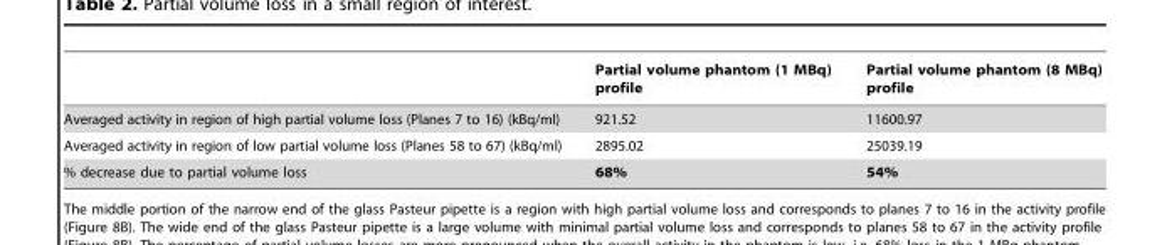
<table><thead><tr><td></td><td>Partial volume phantom (1 MBq) profile</td><td>Partial volume phantom (8 MBq) profile</td></tr></thead><tbody><tr><td>Averaged activity in region of high partial volume loss (Planes 7 to 16) (kBq/ml)</td><td>921.52</td><td>11600.97</td></tr><tr><td>Averaged activity in region of low partial volume loss (Planes 58 to 67) (kBq/ml)</td><td>2895.02</td><td>25039.19</td></tr><tr><td>% decrease due to partial volume loss</td><td>68%</td><td>54%</td></tr></tbody></table>